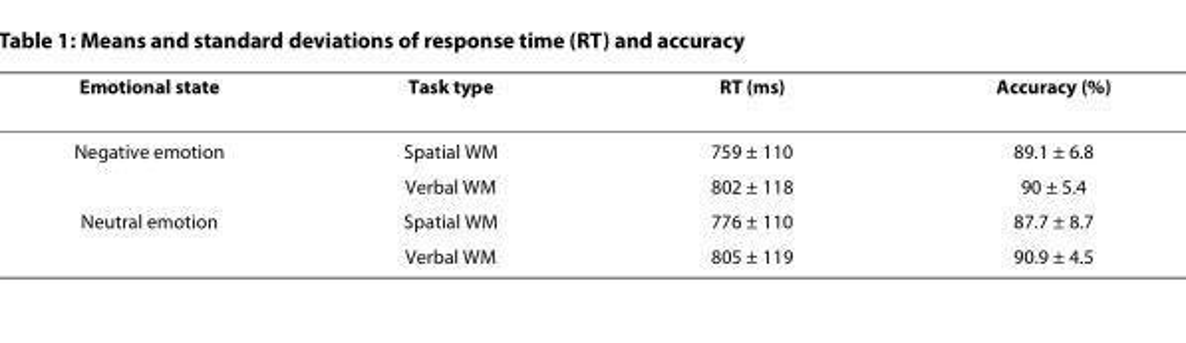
<table><thead><tr><td>Emotional state</td><td>Task type</td><td>RT (ms)</td><td>Accuracy (%)</td></tr></thead><tbody><tr><td rowspan="2">Negative emotion</td><td>Spatial WM</td><td>759 ± 110</td><td>89.1 ± 6.8</td></tr><tr><td>Verbal WM</td><td>802 ± 118</td><td>90 ± 5.4</td></tr><tr><td rowspan="2">Neutral emotion</td><td>Spatial WM</td><td>776 ± 110</td><td>87.7 ± 8.7</td></tr><tr><td>Verbal WM</td><td>805 ± 119</td><td>90.9 ± 4.5</td></tr></tbody></table>